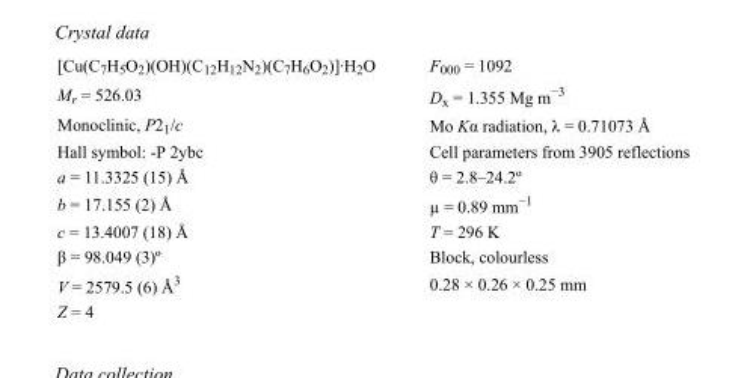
<table><tbody><tr><td>[Cu(C<sub>7</sub>H<sub>5</sub>O<sub>2</sub>)(OH)(C<sub>12</sub>H<sub>12</sub>N<sub>2</sub>)(C<sub>7</sub>H<sub>6</sub>O<sub>2</sub>)]·H<sub>2</sub>O</td><td>F000 = 1092</td></tr><tr><td>M<sub>r</sub> = 526.03</td><td>D<sub>x</sub> = 1.355 Mg m<sup>−3</sup></td></tr><tr><td>Monoclinic, P2<sub>1</sub>/c</td><td>Mo Kα radiation, λ = 0.71073 Å</td></tr><tr><td>Hall symbol: -P 2ybc</td><td>Cell parameters from 3905 reflections</td></tr><tr><td>a = 11.3325 (15) Å</td><td>θ = 2.8–24.2º</td></tr><tr><td>b = 17.155 (2) Å</td><td>µ = 0.89 mm<sup>−1</sup></td></tr><tr><td>c = 13.4007 (18) Å</td><td>T = 296 K</td></tr><tr><td>β = 98.049 (3)º</td><td>Block, colourless</td></tr><tr><td>V = 2579.5 (6) Å<sup>3</sup></td><td>0.28 × 0.26 × 0.25 mm</td></tr><tr><td>Z = 4</td><td></td></tr></tbody></table>